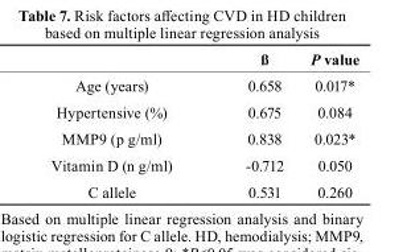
<table><thead><tr><td></td><td>ß</td><td>P value</td></tr></thead><tbody><tr><td>Age (years)</td><td>0.658</td><td>0.017*</td></tr><tr><td>Hypertensive (%)</td><td>0.675</td><td>0.084</td></tr><tr><td>MMP9 (p g/ml)</td><td>0.838</td><td>0.023*</td></tr><tr><td>Vitamin D (n g/ml)</td><td>-0.712</td><td>0.050</td></tr><tr><td>C allele</td><td>0.531</td><td>0.260</td></tr></tbody></table>